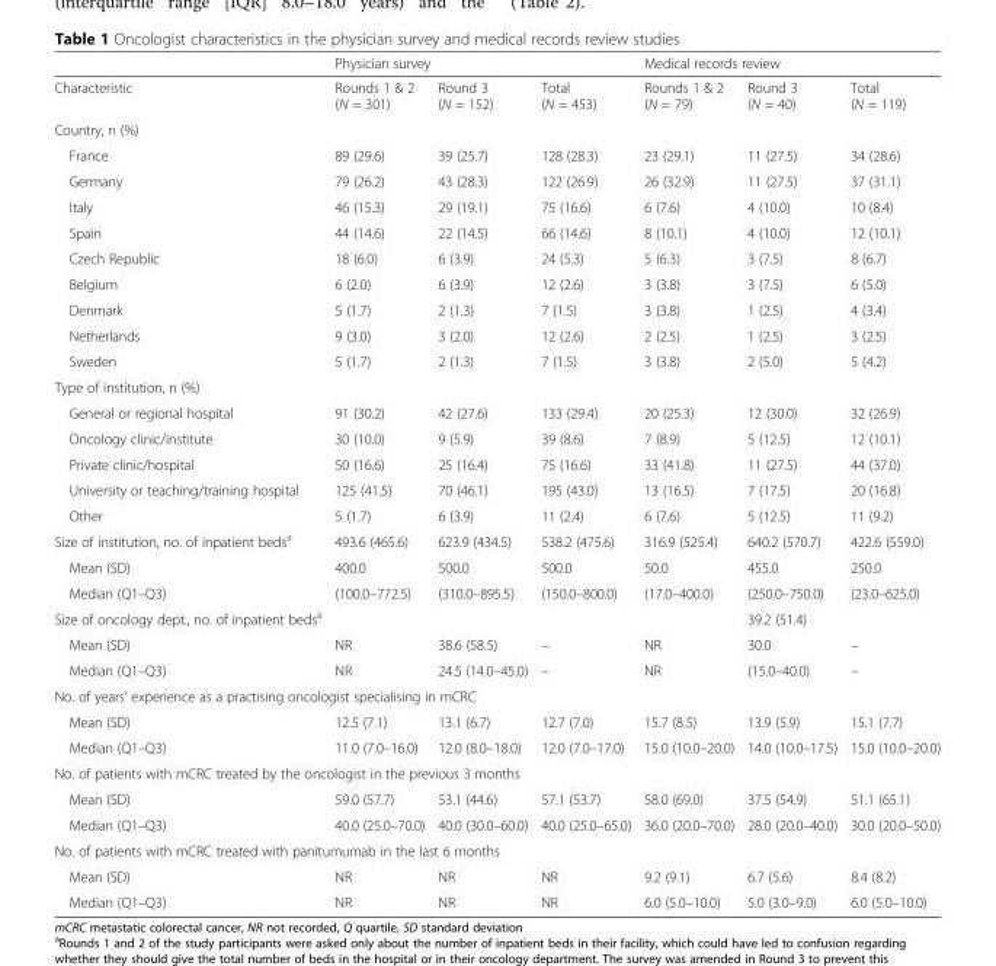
<table><thead><tr><td rowspan="2">Characteristic</td><td colspan="3">Physician survey</td><td colspan="3">Medical records review</td></tr><tr><td>Rounds 1 &amp; 2 (N = 301)</td><td>Round 3 (N = 152)</td><td>Total (N = 453)</td><td>Rounds 1 &amp; 2 (N = 79)</td><td>Round 3 (N = 40)</td><td>Total (N = 119)</td></tr></thead><tbody><tr><td colspan="7">Country, n (%)</td></tr><tr><td>France</td><td>89 (29.6)</td><td>39 (25.7)</td><td>128 (28.3)</td><td>23 (29.1)</td><td>11 (27.5)</td><td>34 (28.6)</td></tr><tr><td>Germany</td><td>79 (26.2)</td><td>43 (28.3)</td><td>122 (26.9)</td><td>26 (32.9)</td><td>11 (27.5)</td><td>37 (31.1)</td></tr><tr><td>Italy</td><td>46 (15.3)</td><td>29 (19.1)</td><td>75 (16.6)</td><td>6 (7.6)</td><td>4 (10.0)</td><td>10 (8.4)</td></tr><tr><td>Spain</td><td>44 (14.6)</td><td>22 (14.5)</td><td>66 (14.6)</td><td>8 (10.1)</td><td>4 (10.0)</td><td>12 (10.1)</td></tr><tr><td>Czech Republic</td><td>18 (6.0)</td><td>6 (3.9)</td><td>24 (5.3)</td><td>5 (6.3)</td><td>3 (7.5)</td><td>8 (6.7)</td></tr><tr><td>Belgium</td><td>6 (2.0)</td><td>6 (3.9)</td><td>12 (2.6)</td><td>3 (3.8)</td><td>3 (7.5)</td><td>6 (5.0)</td></tr><tr><td>Denmark</td><td>5 (1.7)</td><td>2 (1.3)</td><td>7 (1.5)</td><td>3 (3.8)</td><td>1 (2.5)</td><td>4 (3.4)</td></tr><tr><td>Netherlands</td><td>9 (3.0)</td><td>3 (2.0)</td><td>12 (2.6)</td><td>2 (2.5)</td><td>1 (2.5)</td><td>3 (2.5)</td></tr><tr><td>Sweden</td><td>5 (1.7)</td><td>2 (1.3)</td><td>7 (1.5)</td><td>3 (3.8)</td><td>2 (5.0)</td><td>5 (4.2)</td></tr><tr><td colspan="7">Type of institution, n (%)</td></tr><tr><td>General or regional hospital</td><td>91 (30.2)</td><td>42 (27.6)</td><td>133 (29.4)</td><td>20 (25.3)</td><td>12 (30.0)</td><td>32 (26.9)</td></tr><tr><td>Oncology clinic/institute</td><td>30 (10.0)</td><td>9 (5.9)</td><td>39 (8.6)</td><td>7 (8.9)</td><td>5 (12.5)</td><td>12 (10.1)</td></tr><tr><td>Private clinic/hospital</td><td>50 (16.6)</td><td>25 (16.4)</td><td>75 (16.6)</td><td>33 (41.8)</td><td>11 (27.5)</td><td>44 (37.0)</td></tr><tr><td>University or teaching/training hospital</td><td>125 (41.5)</td><td>70 (46.1)</td><td>195 (43.0)</td><td>13 (16.5)</td><td>7 (17.5)</td><td>20 (16.8)</td></tr><tr><td>Other</td><td>5 (1.7)</td><td>6 (3.9)</td><td>11 (2.4)</td><td>6 (7.6)</td><td>5 (12.5)</td><td>11 (9.2)</td></tr><tr><td>Size of institution, no. of inpatient beds<sup>a</sup></td><td>493.6 (465.6)</td><td>623.9 (434.5)</td><td>538.2 (475.6)</td><td>316.9 (525.4)</td><td>640.2 (570.7)</td><td>422.6 (559.0)</td></tr><tr><td>Mean (SD)</td><td>400.0</td><td>500.0</td><td>500.0</td><td>50.0</td><td>455.0</td><td>250.0</td></tr><tr><td>Median (Q1–Q3)</td><td>(100.0–772.5)</td><td>(310.0–895.5)</td><td>(150.0–800.0)</td><td>(17.0–400.0)</td><td>(250.0–750.0)</td><td>(23.0–625.0)</td></tr><tr><td>Size of oncology dept., no. of inpatient beds<sup>a</sup></td><td></td><td></td><td></td><td></td><td>39.2 (51.4)</td><td></td></tr><tr><td>Mean (SD)</td><td>NR</td><td>38.6 (58.5)</td><td>–</td><td>NR</td><td>30.0</td><td>–</td></tr><tr><td>Median (Q1–Q3)</td><td>NR</td><td>24.5 (14.0–45.0)</td><td>–</td><td>NR</td><td>(15.0–40.0)</td><td>–</td></tr><tr><td colspan="7">No. of years’ experience as a practising oncologist specialising in mCRC</td></tr><tr><td>Mean (SD)</td><td>12.5 (7.1)</td><td>13.1 (6.7)</td><td>12.7 (7.0)</td><td>15.7 (8.5)</td><td>13.9 (5.9)</td><td>15.1 (7.7)</td></tr><tr><td>Median (Q1–Q3)</td><td>11.0 (7.0–16.0)</td><td>12.0 (8.0–18.0)</td><td>12.0 (7.0–17.0)</td><td>15.0 (10.0–20.0)</td><td>14.0 (10.0–17.5)</td><td>15.0 (10.0–20.0)</td></tr><tr><td colspan="7">No. of patients with mCRC treated by the oncologist in the previous 3 months</td></tr><tr><td>Mean (SD)</td><td>59.0 (57.7)</td><td>53.1 (44.6)</td><td>57.1 (53.7)</td><td>58.0 (69.0)</td><td>37.5 (54.9)</td><td>51.1 (65.1)</td></tr><tr><td>Median (Q1–Q3)</td><td>40.0 (25.0–70.0)</td><td>40.0 (30.0–60.0)</td><td>40.0 (25.0–65.0)</td><td>36.0 (20.0–70.0)</td><td>28.0 (20.0–40.0)</td><td>30.0 (20.0–50.0)</td></tr><tr><td colspan="7">No. of patients with mCRC treated with panitumumab in the last 6 months</td></tr><tr><td>Mean (SD)</td><td>NR</td><td>NR</td><td>NR</td><td>9.2 (9.1)</td><td>6.7 (5.6)</td><td>8.4 (8.2)</td></tr><tr><td>Median (Q1–Q3)</td><td>NR</td><td>NR</td><td>NR</td><td>6.0 (5.0–10.0)</td><td>5.0 (3.0–9.0)</td><td>6.0 (5.0–10.0)</td></tr></tbody></table>